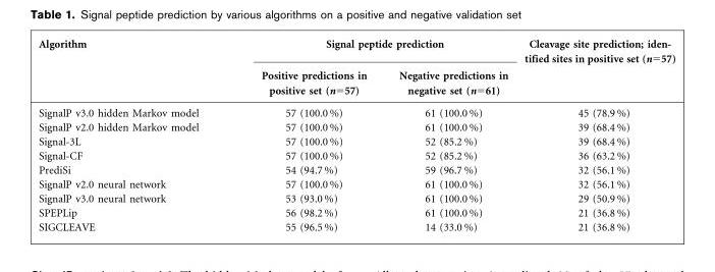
<table><thead><tr><td rowspan="2">Algorithm</td><td colspan="2">Signal peptide prediction</td><td rowspan="2">Cleavage site prediction; iden- tified sites in positive set (n557)</td></tr><tr><td>Positive predictions in positive set (n=57)</td><td>Negative predictions in negative set (n=61)</td></tr></thead><tbody><tr><td>SignalP v3.0 hidden Markov model</td><td>57 (100.0 %)</td><td>61 (100.0 %)</td><td>45 (78.9 %)</td></tr><tr><td>SignalP v2.0 hidden Markov model</td><td>57 (100.0 %)</td><td>61 (100.0 %)</td><td>39 (68.4 %)</td></tr><tr><td>Signal-3L</td><td>57 (100.0 %)</td><td>52 (85.2 %)</td><td>39 (68.4 %)</td></tr><tr><td>Signal-CF</td><td>57 (100.0 %)</td><td>52 (85.2 %)</td><td>36 (63.2 %)</td></tr><tr><td>PrediSi</td><td>54 (94.7 %)</td><td>59 (96.7 %)</td><td>32 (56.1 %)</td></tr><tr><td>SignalP v2.0 neural network</td><td>57 (100.0 %)</td><td>61 (100.0 %)</td><td>32 (56.1 %)</td></tr><tr><td>SignalP v3.0 neural network</td><td>53 (93.0 %)</td><td>61 (100.0 %)</td><td>29 (50.9 %)</td></tr><tr><td>SPEPLip</td><td>56 (98.2 %)</td><td>61 (100.0 %)</td><td>21 (36.8 %)</td></tr><tr><td>SIGCLEAVE</td><td>55 (96.5 %)</td><td>14 (33.0 %)</td><td>21 (36.8 %)</td></tr></tbody></table>